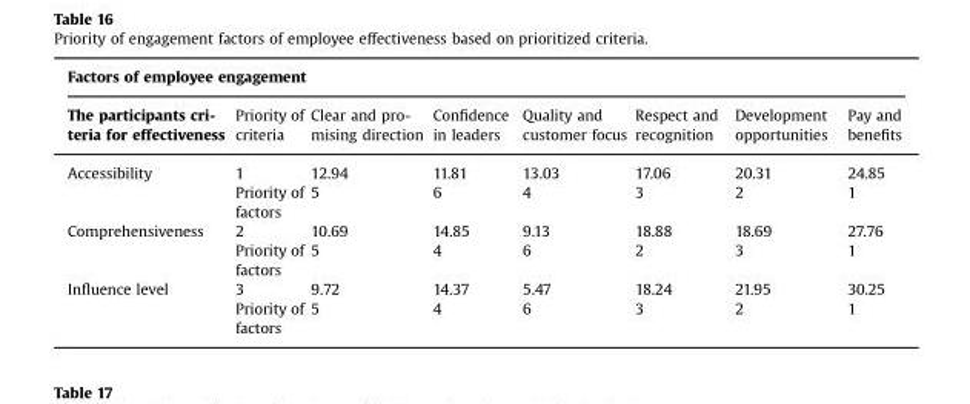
<table><thead><tr><td colspan="8">Factors of employee engagement</td></tr><tr><td>The participants cri- teria for effectiveness</td><td>Priority of criteria</td><td>Clear and pro- mising direction</td><td>Confidence in leaders</td><td>Quality and customer focus</td><td>Respect and recognition</td><td>Development opportunities</td><td>Pay and benefits</td></tr></thead><tbody><tr><td rowspan="2">Accessibility</td><td>1</td><td>12.94</td><td>11.81</td><td>13.03</td><td>17.06</td><td>20.31</td><td>24.85</td></tr><tr><td>Priority of factors</td><td>5</td><td>6</td><td>4</td><td>3</td><td>2</td><td>1</td></tr><tr><td rowspan="2">Comprehensiveness</td><td>2</td><td>10.69</td><td>14.85</td><td>9.13</td><td>18.88</td><td>18.69</td><td>27.76</td></tr><tr><td>Priority of factors</td><td>5</td><td>4</td><td>6</td><td>2</td><td>3</td><td>1</td></tr><tr><td rowspan="2">Influence level</td><td>3</td><td>9.72</td><td>14.37</td><td>5.47</td><td>18.24</td><td>21.95</td><td>30.25</td></tr><tr><td>Priority of factors</td><td>5</td><td>4</td><td>6</td><td>3</td><td>2</td><td>1</td></tr></tbody></table>